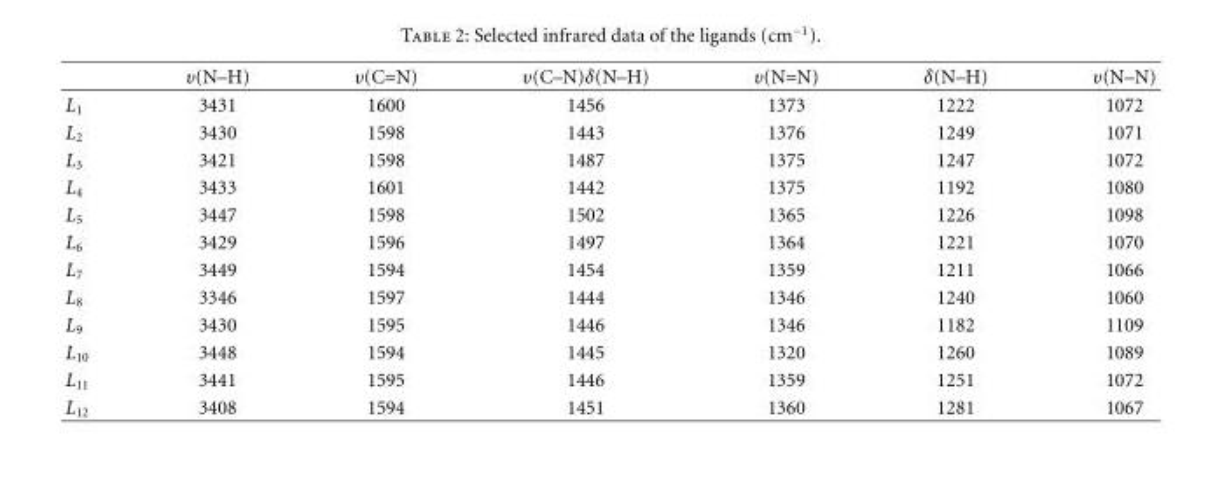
<table><thead><tr><td></td><td>υ(N–H)</td><td>υ(C=N)</td><td>υ(C–N)δ(N–H)</td><td>υ(N=N)</td><td>δ(N–H)</td><td>υ(N–N)</td></tr></thead><tbody><tr><td>L<sub>1</sub></td><td>3431</td><td>1600</td><td>1456</td><td>1373</td><td>1222</td><td>1072</td></tr><tr><td>L<sub>2</sub></td><td>3430</td><td>1598</td><td>1443</td><td>1376</td><td>1249</td><td>1071</td></tr><tr><td>L<sub>3</sub></td><td>3421</td><td>1598</td><td>1487</td><td>1375</td><td>1247</td><td>1072</td></tr><tr><td>L<sub>4</sub></td><td>3433</td><td>1601</td><td>1442</td><td>1375</td><td>1192</td><td>1080</td></tr><tr><td>L<sub>5</sub></td><td>3447</td><td>1598</td><td>1502</td><td>1365</td><td>1226</td><td>1098</td></tr><tr><td>L<sub>6</sub></td><td>3429</td><td>1596</td><td>1497</td><td>1364</td><td>1221</td><td>1070</td></tr><tr><td>L<sub>7</sub></td><td>3449</td><td>1594</td><td>1454</td><td>1359</td><td>1211</td><td>1066</td></tr><tr><td>L<sub>8</sub></td><td>3346</td><td>1597</td><td>1444</td><td>1346</td><td>1240</td><td>1060</td></tr><tr><td>L<sub>9</sub></td><td>3430</td><td>1595</td><td>1446</td><td>1346</td><td>1182</td><td>1109</td></tr><tr><td>L<sub>10</sub></td><td>3448</td><td>1594</td><td>1445</td><td>1320</td><td>1260</td><td>1089</td></tr><tr><td>L<sub>11</sub></td><td>3441</td><td>1595</td><td>1446</td><td>1359</td><td>1251</td><td>1072</td></tr><tr><td>L<sub>12</sub></td><td>3408</td><td>1594</td><td>1451</td><td>1360</td><td>1281</td><td>1067</td></tr></tbody></table>